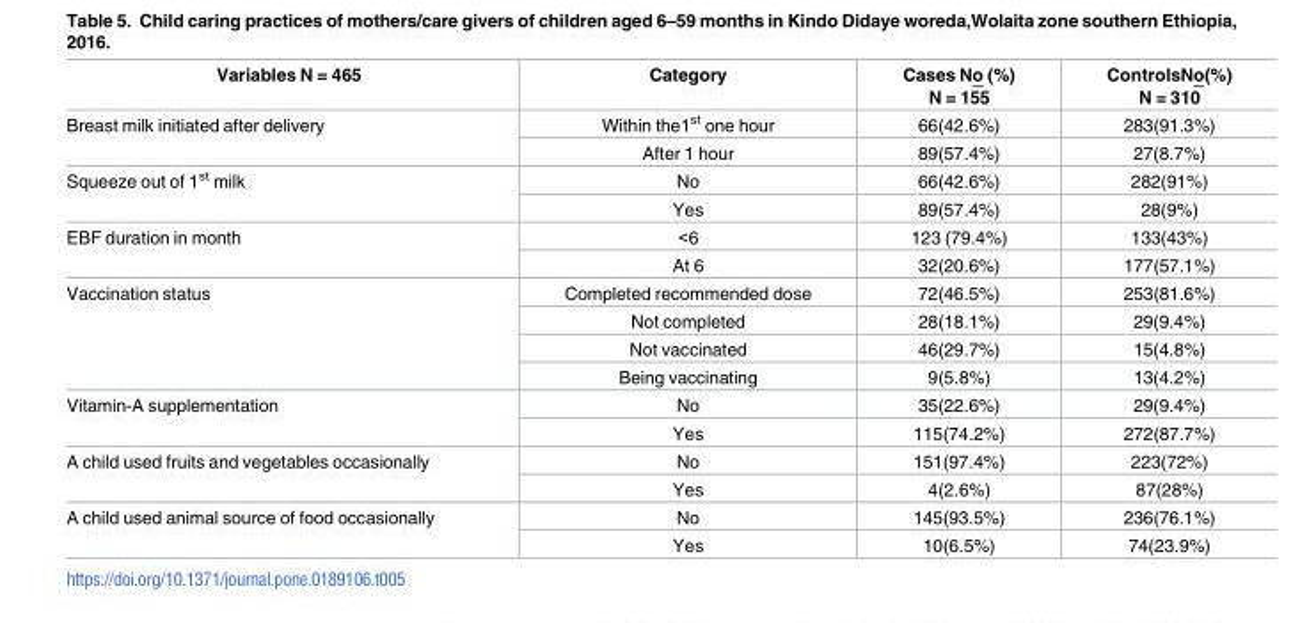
<table><thead><tr><td>Variables N = 465</td><td>Category</td><td>Cases No (%) N = 155</td><td>ControlsNo(%) N = 310</td></tr></thead><tbody><tr><td rowspan="2">Breast milk initiated after delivery</td><td>Within the1<sup>st</sup> one hour</td><td>66(42.6%)</td><td>283(91.3%)</td></tr><tr><td>After 1 hour</td><td>89(57.4%)</td><td>27(8.7%)</td></tr><tr><td rowspan="2">Squeeze out of 1<sup>st</sup> milk</td><td>No</td><td>66(42.6%)</td><td>282(91%)</td></tr><tr><td>Yes</td><td>89(57.4%)</td><td>28(9%)</td></tr><tr><td rowspan="2">EBF duration in month</td><td>&lt;6</td><td>123 (79.4%)</td><td>133(43%)</td></tr><tr><td>At 6</td><td>32(20.6%)</td><td>177(57.1%)</td></tr><tr><td rowspan="4">Vaccination status</td><td>Completed recommended dose</td><td>72(46.5%)</td><td>253(81.6%)</td></tr><tr><td>Not completed</td><td>28(18.1%)</td><td>29(9.4%)</td></tr><tr><td>Not vaccinated</td><td>46(29.7%)</td><td>15(4.8%)</td></tr><tr><td>Being vaccinating</td><td>9(5.8%)</td><td>13(4.2%)</td></tr><tr><td rowspan="2">Vitamin-A supplementation</td><td>No</td><td>35(22.6%)</td><td>29(9.4%)</td></tr><tr><td>Yes</td><td>115(74.2%)</td><td>272(87.7%)</td></tr><tr><td rowspan="2">A child used fruits and vegetables occasionally</td><td>No</td><td>151(97.4%)</td><td>223(72%)</td></tr><tr><td>Yes</td><td>4(2.6%)</td><td>87(28%)</td></tr><tr><td rowspan="2">A child used animal source of food occasionally</td><td>No</td><td>145(93.5%)</td><td>236(76.1%)</td></tr><tr><td>Yes</td><td>10(6.5%)</td><td>74(23.9%)</td></tr></tbody></table>